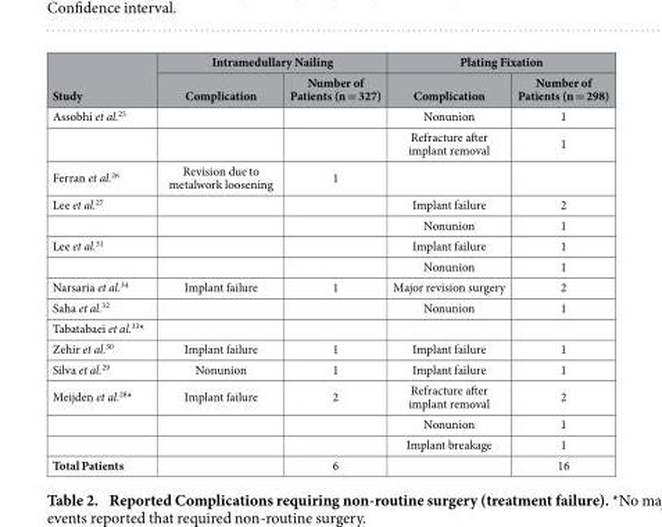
<table><thead><tr><td rowspan="2">Study</td><td colspan="2">Intramedullary Nailing</td><td colspan="2">Plating Fixation</td></tr><tr><td>Complication</td><td>Number of Patients (n = 327)</td><td>Complication</td><td>Number of Patients (n = 298)</td></tr></thead><tbody><tr><td rowspan="2">Assobhi et al.<sup>25</sup></td><td></td><td></td><td>Nonunion</td><td>1</td></tr><tr><td></td><td></td><td>Refracture after implant removal</td><td>1</td></tr><tr><td>Ferran et al.<sup>26</sup></td><td>Revision due to metalwork loosening</td><td>1</td><td></td><td></td></tr><tr><td rowspan="2">Lee et al.<sup>27</sup></td><td></td><td></td><td>Implant failure</td><td>2</td></tr><tr><td></td><td></td><td>Nonunion</td><td>1</td></tr><tr><td rowspan="2">Lee et al.<sup>31</sup></td><td></td><td></td><td>Implant failure</td><td>1</td></tr><tr><td></td><td></td><td>Nonunion</td><td>1</td></tr><tr><td>Narsaria et al.<sup>34</sup></td><td>Implant failure</td><td>1</td><td>Major revision surgery</td><td>2</td></tr><tr><td>Saha et al.<sup>32</sup></td><td></td><td></td><td>Nonunion</td><td>1</td></tr><tr><td colspan="5">Tabatabaei et al.<sup>33</sup>*</td></tr><tr><td>Zehir et al.<sup>30</sup></td><td>Implant failure</td><td>1</td><td>Implant failure</td><td>1</td></tr><tr><td>Silva et al.<sup>29</sup></td><td>Nonunion</td><td>1</td><td>Implant failure</td><td>1</td></tr><tr><td rowspan="3">Meijden et al.<sup>28</sup>*</td><td>Implant failure</td><td>2</td><td>Refracture after implant removal</td><td>2</td></tr><tr><td></td><td></td><td>Nonunion</td><td>1</td></tr><tr><td></td><td></td><td>Implant breakage</td><td>1</td></tr><tr><td>Total Patients</td><td></td><td>6</td><td></td><td>16</td></tr></tbody></table>